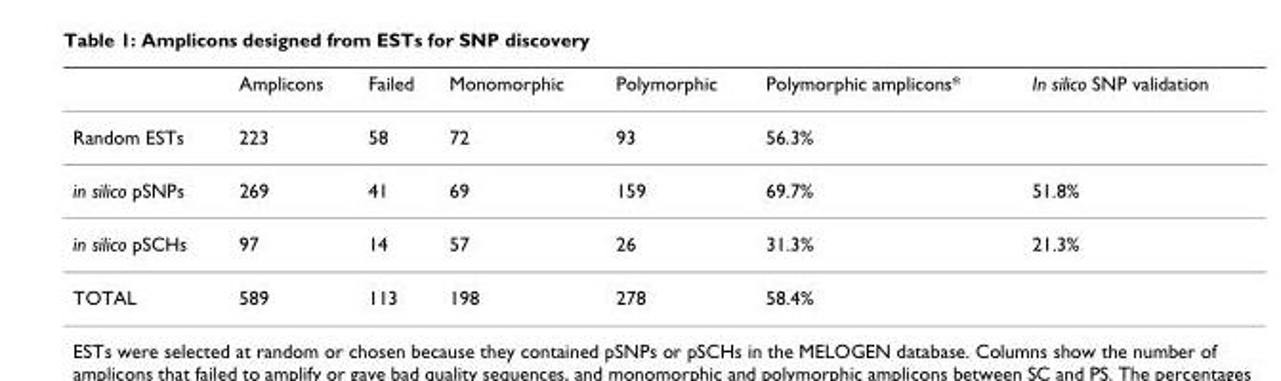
<table><thead><tr><td></td><td>Amplicons</td><td>Failed</td><td>Monomorphic</td><td>Polymorphic</td><td>Polymorphic amplicons*</td><td>In silico SNP validation</td></tr></thead><tbody><tr><td>Random ESTs</td><td>223</td><td>58</td><td>72</td><td>93</td><td>56.3%</td><td></td></tr><tr><td>in silico pSNPs</td><td>269</td><td>41</td><td>69</td><td>159</td><td>69.7%</td><td>51.8%</td></tr><tr><td>in silico pSCHs</td><td>97</td><td>14</td><td>57</td><td>26</td><td>31.3%</td><td>21.3%</td></tr><tr><td>TOTAL</td><td>589</td><td>113</td><td>198</td><td>278</td><td>58.4%</td><td></td></tr></tbody></table>